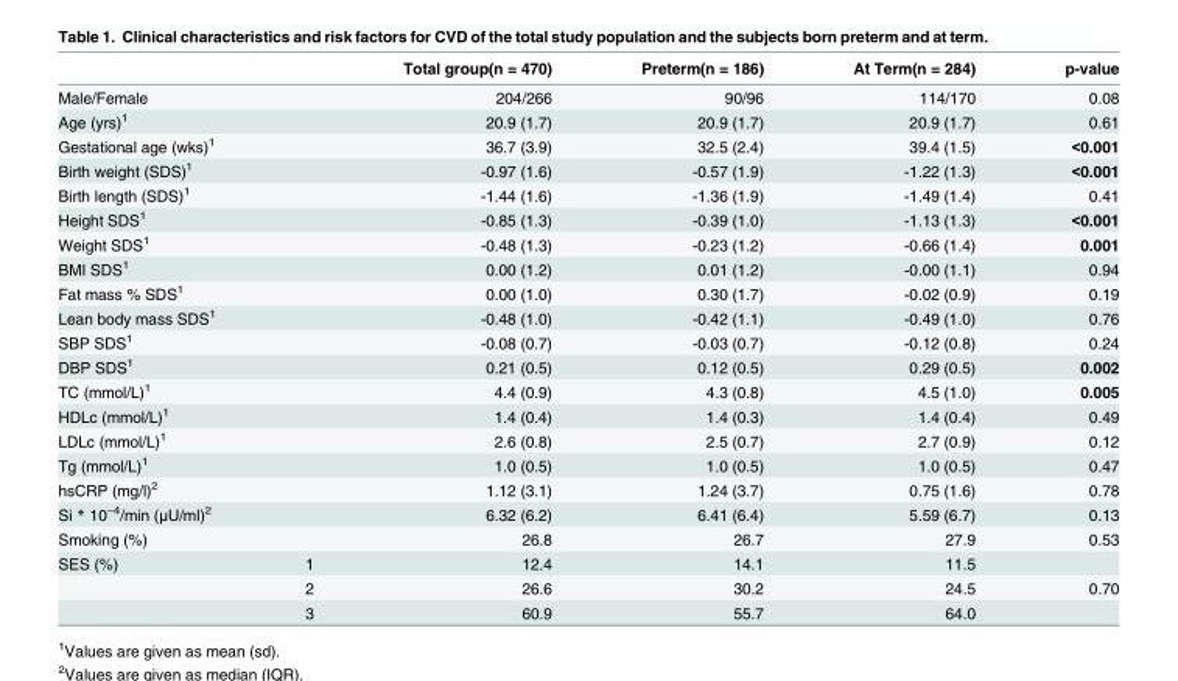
<table><thead><tr><td></td><td></td><td>Total group(n = 470)</td><td>Preterm(n = 186)</td><td>At Term(n = 284)</td><td>p-value</td></tr></thead><tbody><tr><td>Male/Female</td><td></td><td>204/266</td><td>90/96</td><td>114/170</td><td>0.08</td></tr><tr><td>Age (yrs)<sup>1</sup></td><td></td><td>20.9 (1.7)</td><td>20.9 (1.7)</td><td>20.9 (1.7)</td><td>0.61</td></tr><tr><td>Gestational age (wks)<sup>1</sup></td><td></td><td>36.7 (3.9)</td><td>32.5 (2.4)</td><td>39.4 (1.5)</td><td>&lt;0.001</td></tr><tr><td>Birth weight (SDS)<sup>1</sup></td><td></td><td>-0.97 (1.6)</td><td>-0.57 (1.9)</td><td>-1.22 (1.3)</td><td>&lt;0.001</td></tr><tr><td>Birth length (SDS)<sup>1</sup></td><td></td><td>-1.44 (1.6)</td><td>-1.36 (1.9)</td><td>-1.49 (1.4)</td><td>0.41</td></tr><tr><td>Height SDS<sup>1</sup></td><td></td><td>-0.85 (1.3)</td><td>-0.39 (1.0)</td><td>-1.13 (1.3)</td><td>&lt;0.001</td></tr><tr><td>Weight SDS<sup>1</sup></td><td></td><td>-0.48 (1.3)</td><td>-0.23 (1.2)</td><td>-0.66 (1.4)</td><td>0.001</td></tr><tr><td>BMI SDS<sup>1</sup></td><td></td><td>0.00 (1.2)</td><td>0.01 (1.2)</td><td>-0.00 (1.1)</td><td>0.94</td></tr><tr><td>Fat mass % SDS<sup>1</sup></td><td></td><td>0.00 (1.0)</td><td>0.30 (1.7)</td><td>-0.02 (0.9)</td><td>0.19</td></tr><tr><td>Lean body mass SDS<sup>1</sup></td><td></td><td>-0.48 (1.0)</td><td>-0.42 (1.1)</td><td>-0.49 (1.0)</td><td>0.76</td></tr><tr><td>SBP SDS<sup>1</sup></td><td></td><td>-0.08 (0.7)</td><td>-0.03 (0.7)</td><td>-0.12 (0.8)</td><td>0.24</td></tr><tr><td>DBP SDS<sup>1</sup></td><td></td><td>0.21 (0.5)</td><td>0.12 (0.5)</td><td>0.29 (0.5)</td><td>0.002</td></tr><tr><td>TC (mmol/L)<sup>1</sup></td><td></td><td>4.4 (0.9)</td><td>4.3 (0.8)</td><td>4.5 (1.0)</td><td>0.005</td></tr><tr><td>HDLc (mmol/L)<sup>1</sup></td><td></td><td>1.4 (0.4)</td><td>1.4 (0.3)</td><td>1.4 (0.4)</td><td>0.49</td></tr><tr><td>LDLc (mmol/L)<sup>1</sup></td><td></td><td>2.6 (0.8)</td><td>2.5 (0.7)</td><td>2.7 (0.9)</td><td>0.12</td></tr><tr><td>Tg (mmol/L)<sup>1</sup></td><td></td><td>1.0 (0.5)</td><td>1.0 (0.5)</td><td>1.0 (0.5)</td><td>0.47</td></tr><tr><td>hsCRP (mg/l)<sup>2</sup></td><td></td><td>1.12 (3.1)</td><td>1.24 (3.7)</td><td>0.75 (1.6)</td><td>0.78</td></tr><tr><td>Si * 10<sup>−4</sup>/min (μU/ml)<sup>2</sup></td><td></td><td>6.32 (6.2)</td><td>6.41 (6.4)</td><td>5.59 (6.7)</td><td>0.13</td></tr><tr><td>Smoking (%)</td><td></td><td>26.8</td><td>26.7</td><td>27.9</td><td>0.53</td></tr><tr><td rowspan="3">SES (%)</td><td>1</td><td>12.4</td><td>14.1</td><td>11.5</td><td></td></tr><tr><td>2</td><td>26.6</td><td>30.2</td><td>24.5</td><td>0.70</td></tr><tr><td>3</td><td>60.9</td><td>55.7</td><td>64.0</td><td></td></tr></tbody></table>